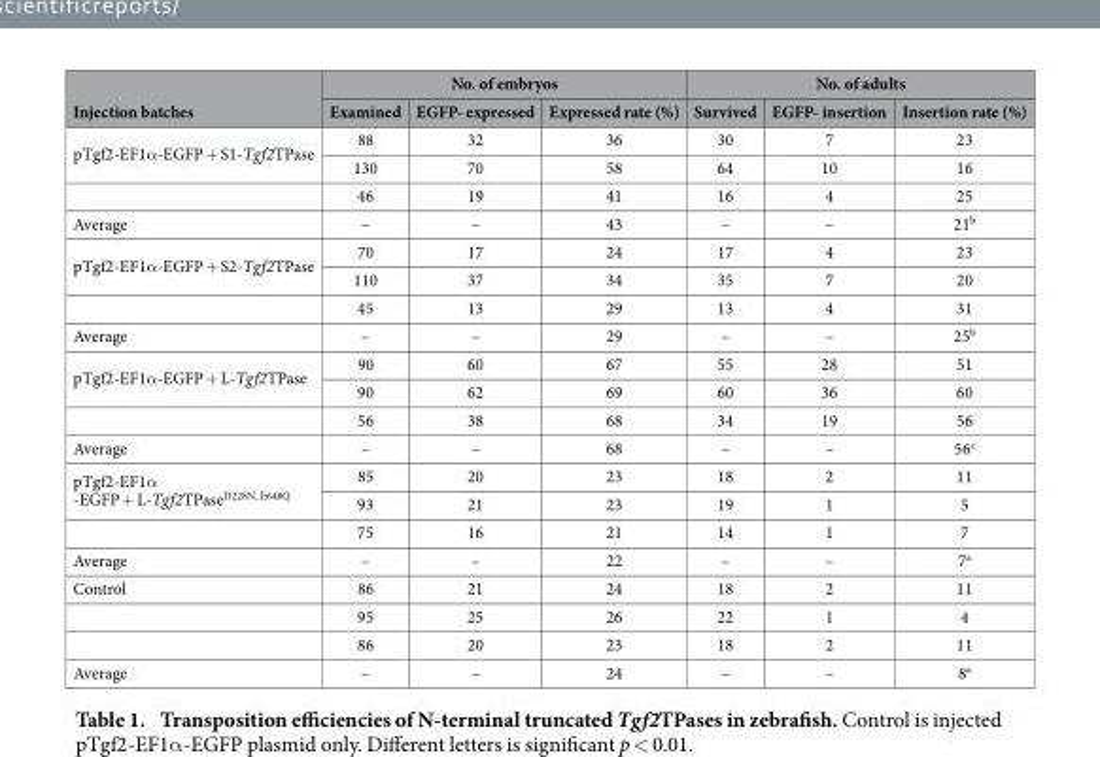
<table><thead><tr><td rowspan="2">Injection batches</td><td colspan="3">No. of embryos</td><td colspan="3">No. of adults</td></tr><tr><td>Examined</td><td>EGFP- expressed</td><td>Expressed rate (%)</td><td>Survived</td><td>EGFP- insertion</td><td>Insertion rate (%)</td></tr></thead><tbody><tr><td rowspan="3">pTgf2-EF1α -EGFP + S1-Tgf2TPase</td><td>88</td><td>32</td><td>36</td><td>30</td><td>7</td><td>23</td></tr><tr><td>130</td><td>70</td><td>58</td><td>64</td><td>10</td><td>16</td></tr><tr><td>46</td><td>19</td><td>41</td><td>16</td><td>4</td><td>25</td></tr><tr><td>Average</td><td>–</td><td>–</td><td>43</td><td>–</td><td>–</td><td>21<sup>b</sup></td></tr><tr><td rowspan="3">pTgf2-EF1α -EGFP + S2-Tgf2TPase</td><td>70</td><td>17</td><td>24</td><td>17</td><td>4</td><td>23</td></tr><tr><td>110</td><td>37</td><td>34</td><td>35</td><td>7</td><td>20</td></tr><tr><td>45</td><td>13</td><td>29</td><td>13</td><td>4</td><td>31</td></tr><tr><td>Average</td><td>–</td><td>–</td><td>29</td><td>–</td><td>–</td><td>25<sup>b</sup></td></tr><tr><td rowspan="3">pTgf2-EF1α -EGFP + L-Tgf2TPase</td><td>90</td><td>60</td><td>67</td><td>55</td><td>28</td><td>51</td></tr><tr><td>90</td><td>62</td><td>69</td><td>60</td><td>36</td><td>60</td></tr><tr><td>56</td><td>38</td><td>68</td><td>34</td><td>19</td><td>56</td></tr><tr><td>Average</td><td>–</td><td>–</td><td>68</td><td>–</td><td>–</td><td>56<sup>c</sup></td></tr><tr><td rowspan="3">pTgf2-EF1α -EGFP + L-Tgf2TPase<sup>D228N, E648Q</sup></td><td>85</td><td>20</td><td>23</td><td>18</td><td>2</td><td>11</td></tr><tr><td>93</td><td>21</td><td>23</td><td>19</td><td>1</td><td>5</td></tr><tr><td>75</td><td>16</td><td>21</td><td>14</td><td>1</td><td>7</td></tr><tr><td>Average</td><td>–</td><td>–</td><td>22</td><td>–</td><td>–</td><td>7<sup>a</sup></td></tr><tr><td rowspan="3">Control</td><td>86</td><td>21</td><td>24</td><td>18</td><td>2</td><td>11</td></tr><tr><td>95</td><td>25</td><td>26</td><td>22</td><td>1</td><td>4</td></tr><tr><td>86</td><td>20</td><td>23</td><td>18</td><td>2</td><td>11</td></tr><tr><td>Average</td><td>–</td><td>–</td><td>24</td><td>–</td><td>–</td><td>8<sup>a</sup></td></tr></tbody></table>